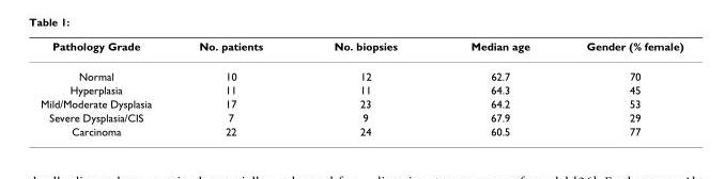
<table><thead><tr><td>Pathology Grade</td><td>No. patients</td><td>No. biopsies</td><td>Median age</td><td>Gender (% female)</td></tr></thead><tbody><tr><td>Normal</td><td>10</td><td>12</td><td>62.7</td><td>70</td></tr><tr><td>Hyperplasia</td><td>11</td><td>11</td><td>64.3</td><td>45</td></tr><tr><td>Mild/Moderate Dysplasia</td><td>17</td><td>23</td><td>64.2</td><td>53</td></tr><tr><td>Severe Dysplasia/CIS</td><td>7</td><td>9</td><td>67.9</td><td>29</td></tr><tr><td>Carcinoma</td><td>22</td><td>24</td><td>60.5</td><td>77</td></tr></tbody></table>